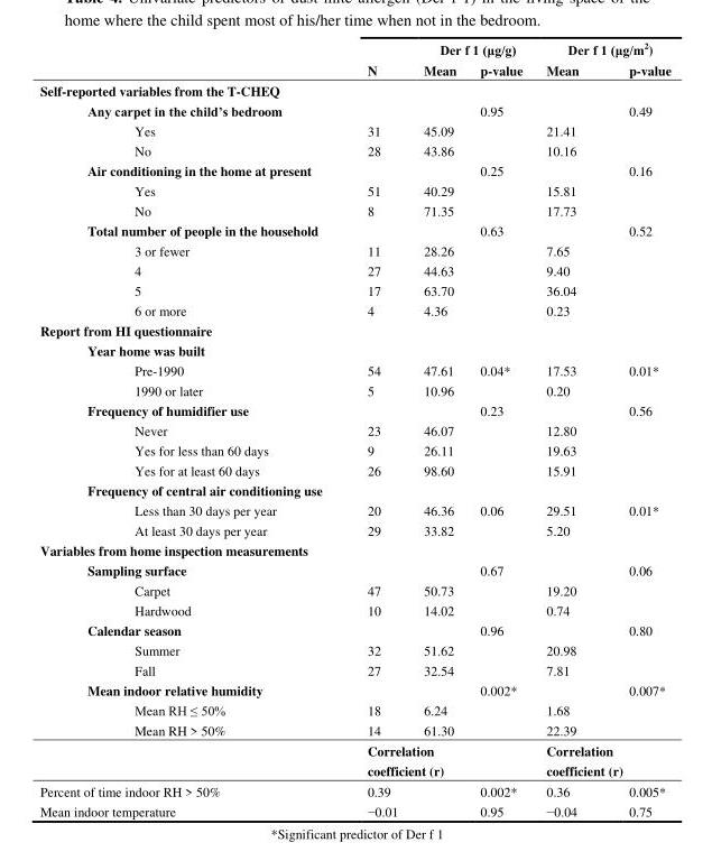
<table><thead><tr><td rowspan="2"></td><td rowspan="2">N</td><td colspan="2">Der f 1 (μg/g)</td><td colspan="2">Der f 1 (μg/m<sup>2</sup>)</td></tr><tr><td>Mean</td><td>p-value</td><td>Mean</td><td>p-value</td></tr></thead><tbody><tr><td colspan="6">Self-reported variables from the T-CHEQ</td></tr><tr><td>Any carpet in the child’s bedroom</td><td></td><td></td><td>0.95</td><td></td><td>0.49</td></tr><tr><td>Yes</td><td>31</td><td>45.09</td><td></td><td>21.41</td><td></td></tr><tr><td>No</td><td>28</td><td>43.86</td><td></td><td>10.16</td><td></td></tr><tr><td>Air conditioning in the home at present</td><td></td><td></td><td>0.25</td><td></td><td>0.16</td></tr><tr><td>Yes</td><td>51</td><td>40.29</td><td></td><td>15.81</td><td></td></tr><tr><td>No</td><td>8</td><td>71.35</td><td></td><td>17.73</td><td></td></tr><tr><td>Total number of people in the household</td><td></td><td></td><td>0.63</td><td></td><td>0.52</td></tr><tr><td>3 or fewer</td><td>11</td><td>28.26</td><td></td><td>7.65</td><td></td></tr><tr><td>4</td><td>27</td><td>44.63</td><td></td><td>9.40</td><td></td></tr><tr><td>5</td><td>17</td><td>63.70</td><td></td><td>36.04</td><td></td></tr><tr><td>6 or more</td><td>4</td><td>4.36</td><td></td><td>0.23</td><td></td></tr><tr><td colspan="6">Report from HI questionnaire</td></tr><tr><td colspan="6">Year home was built</td></tr><tr><td>Pre-1990</td><td>54</td><td>47.61</td><td>0.04*</td><td>17.53</td><td>0.01*</td></tr><tr><td>1990 or later</td><td>5</td><td>10.96</td><td></td><td>0.20</td><td></td></tr><tr><td>Frequency of humidifier use</td><td></td><td></td><td>0.23</td><td></td><td>0.56</td></tr><tr><td>Never</td><td>23</td><td>46.07</td><td></td><td>12.80</td><td></td></tr><tr><td>Yes for less than 60 days</td><td>9</td><td>26.11</td><td></td><td>19.63</td><td></td></tr><tr><td>Yes for at least 60 days</td><td>26</td><td>98.60</td><td></td><td>15.91</td><td></td></tr><tr><td colspan="6">Frequency of central air conditioning use</td></tr><tr><td>Less than 30 days per year</td><td>20</td><td>46.36</td><td>0.06</td><td>29.51</td><td>0.01*</td></tr><tr><td>At least 30 days per year</td><td>29</td><td>33.82</td><td></td><td>5.20</td><td></td></tr><tr><td colspan="6">Variables from home inspection measurements</td></tr><tr><td>Sampling surface</td><td></td><td></td><td>0.67</td><td></td><td>0.06</td></tr><tr><td>Carpet</td><td>47</td><td>50.73</td><td></td><td>19.20</td><td></td></tr><tr><td>Hardwood</td><td>10</td><td>14.02</td><td></td><td>0.74</td><td></td></tr><tr><td>Calendar season</td><td></td><td></td><td>0.96</td><td></td><td>0.80</td></tr><tr><td>Summer</td><td>32</td><td>51.62</td><td></td><td>20.98</td><td></td></tr><tr><td>Fall</td><td>27</td><td>32.54</td><td></td><td>7.81</td><td></td></tr><tr><td>Mean indoor relative humidity</td><td></td><td></td><td>0.002*</td><td></td><td>0.007*</td></tr><tr><td>Mean RH ≤ 50%</td><td>18</td><td>6.24</td><td></td><td>1.68</td><td></td></tr><tr><td rowspan="2">Mean RH &gt; 50%</td><td>14</td><td>61.30</td><td></td><td>22.39</td><td></td></tr><tr><td colspan="2">Correlation coefficient (r)</td><td></td><td>Correlation coefficient (r)</td><td></td></tr><tr><td>Percent of time indoor RH &gt; 50%</td><td>0.39</td><td></td><td>0.002*</td><td>0.36</td><td>0.005*</td></tr><tr><td>Mean indoor temperature</td><td>−0.01</td><td></td><td>0.95</td><td>−0.04</td><td>0.75</td></tr></tbody></table>